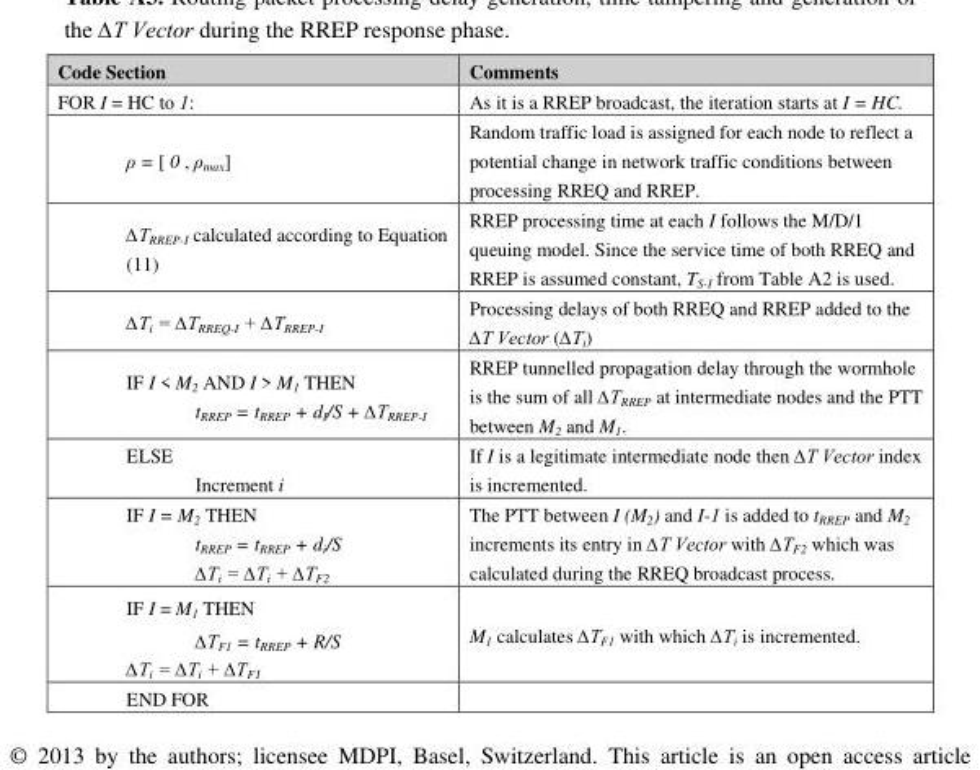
<table><thead><tr><td>Code Section</td><td>Comments</td></tr></thead><tbody><tr><td>FOR I = HC to 1:</td><td>As it is a RREP broadcast, the iteration starts at I = HC.</td></tr><tr><td>ρ = [ 0 , ρmax]</td><td>Random traffic load is assigned for each node to reflect a potential change in network traffic conditions between processing RREQ and RREP.</td></tr><tr><td>∆TRREP-I calculated according to Equation (11)</td><td>RREP processing time at each I follows the M/D/1 queuing model. Since the service time of both RREQ and RREP is assumed constant, TS-I from Table A2 is used.</td></tr><tr><td>∆Ti = ∆TRREQ-I + ∆TRREP-I</td><td>Processing delays of both RREQ and RREP added to the ∆T Vector (∆Ti)</td></tr><tr><td>IF I &lt; M2 AND I &gt; M1 THEN tRREP = tRREP + dI/S + ∆TRREP-I</td><td>RREP tunnelled propagation delay through the wormhole is the sum of all ∆TRREP at intermediate nodes and the PTT between M2 and M1.</td></tr><tr><td>ELSE Increment i</td><td>If I is a legitimate intermediate node then ∆T Vector index is incremented.</td></tr><tr><td>IF I = M2 THEN tRREP = tRREP + di/S ∆Ti = ∆Ti + ∆TF2</td><td>The PTT between I (M2) and I-1 is added to tRREP and M2 increments its entry in ∆T Vector with ∆TF2 which was calculated during the RREQ broadcast process.</td></tr><tr><td>IF I = M1 THEN ∆TF1 = tRREP + R/S ∆Ti = ∆Ti + ∆TF1</td><td>M1 calculates ∆TF1 with which ∆Ti is incremented.</td></tr><tr><td>END FOR</td><td></td></tr></tbody></table>